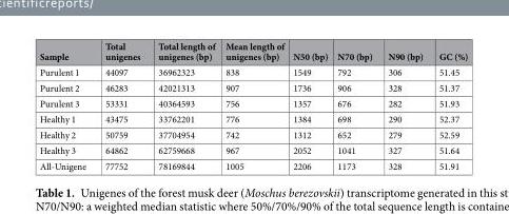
<table><thead><tr><td>Sample</td><td>Total unigenes</td><td>Total length of unigenes (bp)</td><td>Mean length of unigenes (bp)</td><td>N50 (bp)</td><td>N70 (bp)</td><td>N90 (bp)</td><td>GC (%)</td></tr></thead><tbody><tr><td>Purulent 1</td><td>44097</td><td>36962323</td><td>838</td><td>1549</td><td>792</td><td>306</td><td>51.45</td></tr><tr><td>Purulent 2</td><td>46283</td><td>42021313</td><td>907</td><td>1736</td><td>906</td><td>328</td><td>51.37</td></tr><tr><td>Purulent 3</td><td>53331</td><td>40364593</td><td>756</td><td>1357</td><td>676</td><td>282</td><td>51.93</td></tr><tr><td>Healthy 1</td><td>43475</td><td>33762201</td><td>776</td><td>1384</td><td>698</td><td>290</td><td>52.37</td></tr><tr><td>Healthy 2</td><td>50759</td><td>37704954</td><td>742</td><td>1312</td><td>652</td><td>279</td><td>52.59</td></tr><tr><td>Healthy 3</td><td>64862</td><td>62759668</td><td>967</td><td>2052</td><td>1041</td><td>327</td><td>51.64</td></tr><tr><td>All-Unigene</td><td>77752</td><td>78169844</td><td>1005</td><td>2206</td><td>1173</td><td>328</td><td>51.91</td></tr></tbody></table>